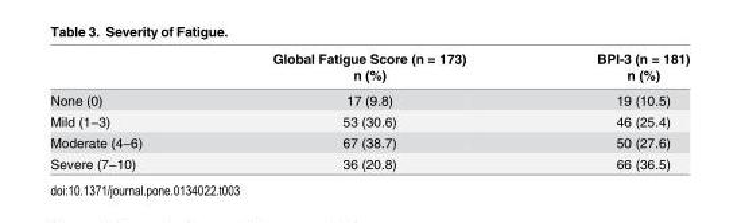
<table><thead><tr><td rowspan="2"></td><td rowspan="2">Global Fatigue Score (n = 173) n (%)</td><td rowspan="2">BPI-3 (n = 181) n (%)</td></tr><tr></tr></thead><tbody><tr><td>None (0)</td><td>17 (9.8)</td><td>19 (10.5)</td></tr><tr><td>Mild (1−3)</td><td>53 (30.6)</td><td>46 (25.4)</td></tr><tr><td>Moderate (4−6)</td><td>67 (38.7)</td><td>50 (27.6)</td></tr><tr><td>Severe (7−10)</td><td>36 (20.8)</td><td>66 (36.5)</td></tr></tbody></table>